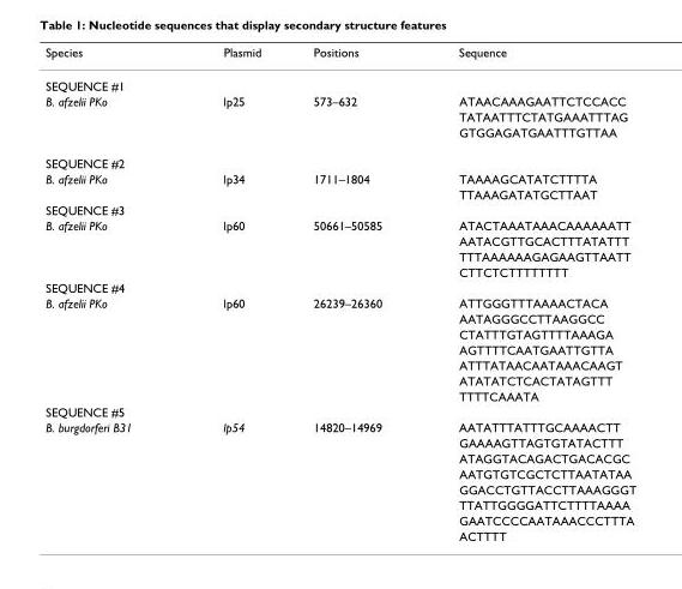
<table><thead><tr><td>Species</td><td>Plasmid</td><td>Positions</td><td>Sequence</td></tr></thead><tbody><tr><td colspan="4">SEQUENCE #1</td></tr><tr><td rowspan="3">B. afzelii PKo</td><td>lp25</td><td>573–632</td><td>ATAACAAAGAATTCTCCACC</td></tr><tr><td></td><td></td><td>TATAATTTCTATGAAATTTAG</td></tr><tr><td></td><td></td><td>GTGGAGATGAATTTGTTAA</td></tr><tr><td colspan="4">SEQUENCE #2</td></tr><tr><td rowspan="2">B. afzelii PKo</td><td>lp34</td><td>1711–1804</td><td>TAAAAGCATATCTTTTA</td></tr><tr><td></td><td></td><td>TTAAAGATATGCTTAAT</td></tr><tr><td colspan="4">SEQUENCE #3</td></tr><tr><td rowspan="4">B. afzelii PKo</td><td>lp60</td><td>50661–50585</td><td>ATACTAAATAAACAAAAAATT</td></tr><tr><td></td><td></td><td>AATACGTTGCACTTTATATTT</td></tr><tr><td></td><td></td><td>TTTAAAAAAGAGAAGTTAATT</td></tr><tr><td></td><td></td><td>CTTCTCTTTTTTTT</td></tr><tr><td colspan="4">SEQUENCE #4</td></tr><tr><td rowspan="7">B. afzelii PKo</td><td>lp60</td><td>26239–26360</td><td>ATTGGGTTTAAAACTACA</td></tr><tr><td></td><td></td><td>AATAGGGCCTTAAGGCC</td></tr><tr><td></td><td></td><td>CTATTTGTAGTTTTAAAGA</td></tr><tr><td></td><td></td><td>AGTTTTCAATGAATTGTTA</td></tr><tr><td></td><td></td><td>ATTTATAACAATAAACAAGT</td></tr><tr><td></td><td></td><td>ATATATCTCACTATAGTTT</td></tr><tr><td></td><td></td><td>TTTTCAAATA</td></tr><tr><td colspan="4">SEQUENCE #5</td></tr><tr><td rowspan="8">B. burgdorferi B31</td><td>lp54</td><td>14820–14969</td><td>AATATTTATTTGCAAAACTT</td></tr><tr><td></td><td></td><td>GAAAAGTTAGTGTATACTTT</td></tr><tr><td></td><td></td><td>ATAGGTACAGACTGACACGC</td></tr><tr><td></td><td></td><td>AATGTGTCGCTCTTAATATAA</td></tr><tr><td></td><td></td><td>GGACCTGTTACCTTAAAGGGT</td></tr><tr><td></td><td></td><td>TTATTGGGGATTCTTTTAAAA</td></tr><tr><td></td><td></td><td>GAATCCCCAATAAACCCTTTA</td></tr><tr><td></td><td></td><td>ACTTTT</td></tr></tbody></table>